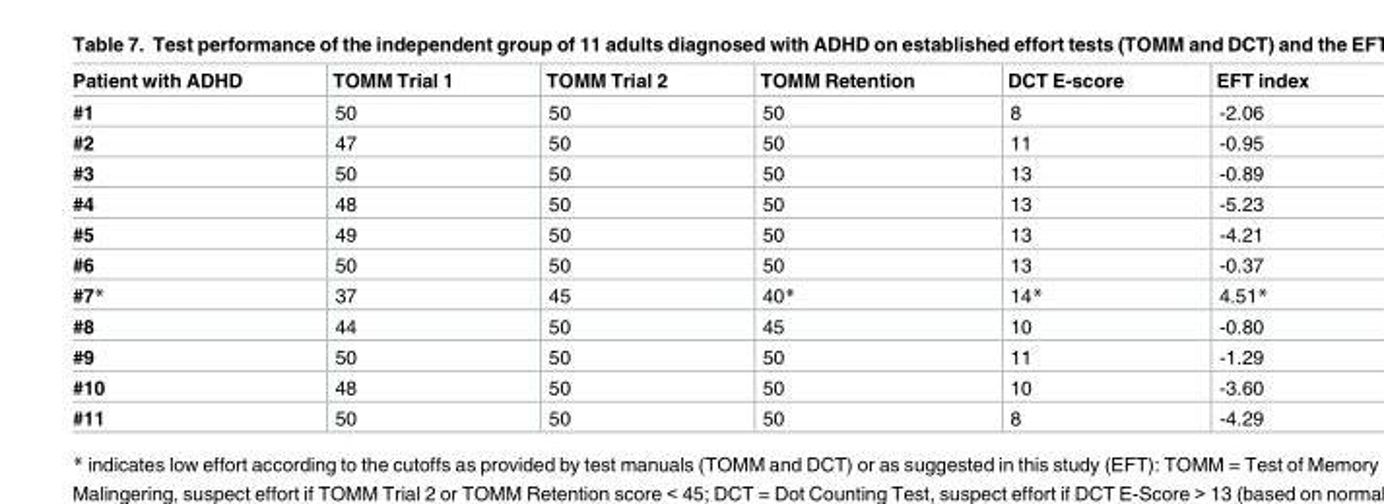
<table><thead><tr><td>Patient with ADHD</td><td>TOMM Trial 1</td><td>TOMM Trial 2</td><td>TOMM Retention</td><td>DCT E-score</td><td>EFT index</td></tr></thead><tbody><tr><td>#1</td><td>50</td><td>50</td><td>50</td><td>8</td><td>-2.06</td></tr><tr><td>#2</td><td>47</td><td>50</td><td>50</td><td>11</td><td>-0.95</td></tr><tr><td>#3</td><td>50</td><td>50</td><td>50</td><td>13</td><td>-0.89</td></tr><tr><td>#4</td><td>48</td><td>50</td><td>50</td><td>13</td><td>-5.23</td></tr><tr><td>#5</td><td>49</td><td>50</td><td>50</td><td>13</td><td>-4.21</td></tr><tr><td>#6</td><td>50</td><td>50</td><td>50</td><td>13</td><td>-0.37</td></tr><tr><td>#7*</td><td>37</td><td>45</td><td>40*</td><td>14*</td><td>4.51*</td></tr><tr><td>#8</td><td>44</td><td>50</td><td>45</td><td>10</td><td>-0.80</td></tr><tr><td>#9</td><td>50</td><td>50</td><td>50</td><td>11</td><td>-1.29</td></tr><tr><td>#10</td><td>48</td><td>50</td><td>50</td><td>10</td><td>-3.60</td></tr><tr><td>#11</td><td>50</td><td>50</td><td>50</td><td>8</td><td>-4.29</td></tr></tbody></table>